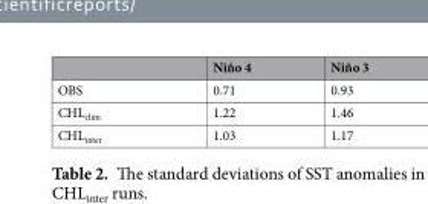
<table><thead><tr><td></td><td>Niño 4</td><td>Niño 3</td></tr></thead><tbody><tr><td>OBS</td><td>0.71</td><td>0.93</td></tr><tr><td>CHL<sub>clim</sub></td><td>1.22</td><td>1.46</td></tr><tr><td>CHL<sub>inter</sub></td><td>1.03</td><td>1.17</td></tr></tbody></table>